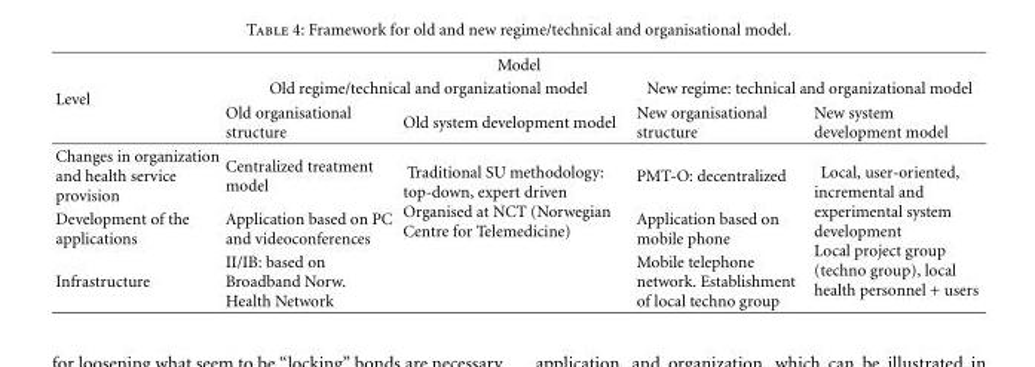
<table><thead><tr><td colspan="5">Model</td></tr><tr><td rowspan="2">Level</td><td colspan="2">Old regime/technical and organizational model</td><td colspan="2">New regime: technical and organizational model</td></tr><tr><td>Old organisational structure</td><td>Old system development model</td><td>New organisational structure</td><td>New system development model</td></tr></thead><tbody><tr><td>Changes in organization and health service provision</td><td>Centralized treatment model</td><td rowspan="3">Traditional SU methodology: top-down, expert driven Organised at NCT (Norwegian Centre for Telemedicine)</td><td>PMT-O: decentralized</td><td rowspan="3">Local, user-oriented, incremental and experimental system development Local project group (techno group), local health personnel + users</td></tr><tr><td>Development of the applications</td><td>Application based on PC and videoconferences</td><td>Application based on mobile phone</td></tr><tr><td>Infrastructure</td><td>II/IB: based on Broadband Norw. Health Network</td><td>Mobile telephone network. Establishment of local techno group</td></tr></tbody></table>